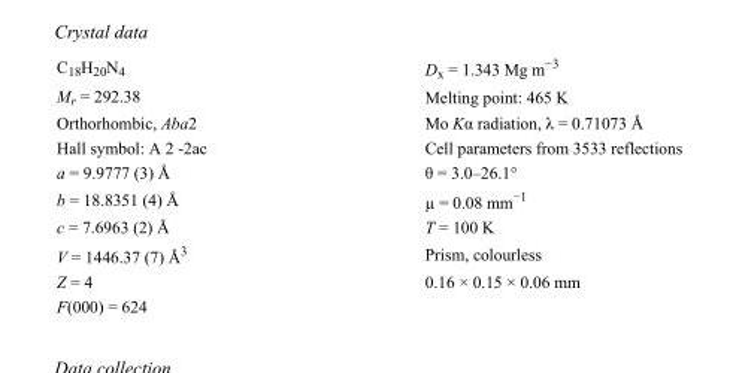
<table><tbody><tr><td>C<sub>18</sub>H<sub>20</sub>N<sub>4</sub></td><td>D<sub>x</sub> = 1.343 Mg m<sup>−3</sup></td></tr><tr><td>M<sub>r</sub> = 292.38</td><td>Melting point: 465 K</td></tr><tr><td>Orthorhombic, Aba2</td><td>Mo Kα radiation, λ = 0.71073 Å</td></tr><tr><td>Hall symbol: A 2 -2ac</td><td>Cell parameters from 3533 reflections</td></tr><tr><td>a = 9.9777 (3) Å</td><td>θ = 3.0–26.1°</td></tr><tr><td>b = 18.8351 (4) Å</td><td>µ = 0.08 mm<sup>−1</sup></td></tr><tr><td>c = 7.6963 (2) Å</td><td>T = 100 K</td></tr><tr><td>V = 1446.37 (7) Å<sup>3</sup></td><td>Prism, colourless</td></tr><tr><td>Z = 4</td><td>0.16 × 0.15 × 0.06 mm</td></tr><tr><td>F(000) = 624</td><td></td></tr></tbody></table>